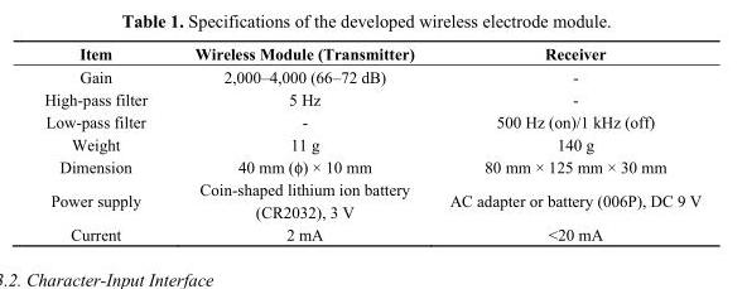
<table><thead><tr><td>Item</td><td>Wireless Module (Transmitter)</td><td>Receiver</td></tr></thead><tbody><tr><td>Gain</td><td>2,000–4,000 (66–72 dB)</td><td>-</td></tr><tr><td>High-pass filter</td><td>5 Hz</td><td>-</td></tr><tr><td>Low-pass filter</td><td>-</td><td>500 Hz (on)/1 kHz (off)</td></tr><tr><td>Weight</td><td>11 g</td><td>140 g</td></tr><tr><td>Dimension</td><td>40 mm (φ) × 10 mm</td><td>80 mm × 125 mm × 30 mm</td></tr><tr><td>Power supply</td><td>Coin-shaped lithium ion battery (CR2032), 3 V</td><td>AC adapter or battery (006P), DC 9 V</td></tr><tr><td>Current</td><td>2 mA</td><td>&lt;20 mA</td></tr></tbody></table>